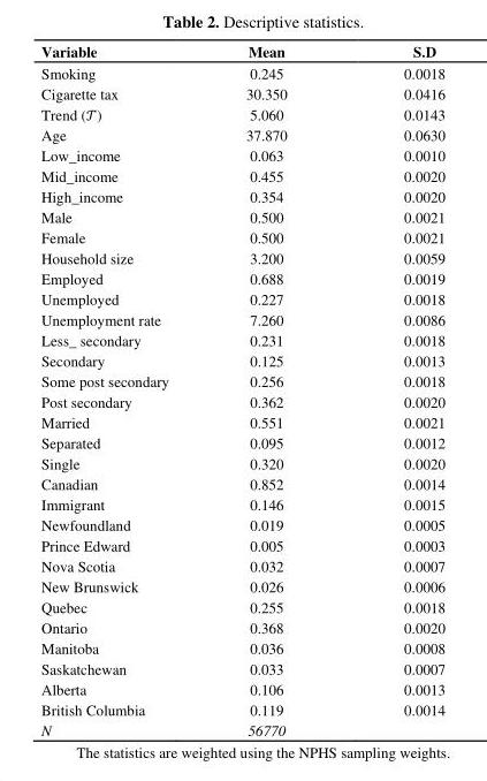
<table><thead><tr><td>Variable</td><td>Mean</td><td>S.D</td></tr></thead><tbody><tr><td>Smoking</td><td>0.245</td><td>0.0018</td></tr><tr><td>Cigarette tax</td><td>30.350</td><td>0.0416</td></tr><tr><td>Trend ( )</td><td>5.060</td><td>0.0143</td></tr><tr><td>Age</td><td>37.870</td><td>0.0630</td></tr><tr><td>Low_income</td><td>0.063</td><td>0.0010</td></tr><tr><td>Mid_income</td><td>0.455</td><td>0.0020</td></tr><tr><td>High_income</td><td>0.354</td><td>0.0020</td></tr><tr><td>Male</td><td>0.500</td><td>0.0021</td></tr><tr><td>Female</td><td>0.500</td><td>0.0021</td></tr><tr><td>Household size</td><td>3.200</td><td>0.0059</td></tr><tr><td>Employed</td><td>0.688</td><td>0.0019</td></tr><tr><td>Unemployed</td><td>0.227</td><td>0.0018</td></tr><tr><td>Unemployment rate</td><td>7.260</td><td>0.0086</td></tr><tr><td>Less_ secondary</td><td>0.231</td><td>0.0018</td></tr><tr><td>Secondary</td><td>0.125</td><td>0.0013</td></tr><tr><td>Some post secondary</td><td>0.256</td><td>0.0018</td></tr><tr><td>Post secondary</td><td>0.362</td><td>0.0020</td></tr><tr><td>Married</td><td>0.551</td><td>0.0021</td></tr><tr><td>Separated</td><td>0.095</td><td>0.0012</td></tr><tr><td>Single</td><td>0.320</td><td>0.0020</td></tr><tr><td>Canadian</td><td>0.852</td><td>0.0014</td></tr><tr><td>Immigrant</td><td>0.146</td><td>0.0015</td></tr><tr><td>Newfoundland</td><td>0.019</td><td>0.0005</td></tr><tr><td>Prince Edward</td><td>0.005</td><td>0.0003</td></tr><tr><td>Nova Scotia</td><td>0.032</td><td>0.0007</td></tr><tr><td>New Brunswick</td><td>0.026</td><td>0.0006</td></tr><tr><td>Quebec</td><td>0.255</td><td>0.0018</td></tr><tr><td>Ontario</td><td>0.368</td><td>0.0020</td></tr><tr><td>Manitoba</td><td>0.036</td><td>0.0008</td></tr><tr><td>Saskatchewan</td><td>0.033</td><td>0.0007</td></tr><tr><td>Alberta</td><td>0.106</td><td>0.0013</td></tr><tr><td>British Columbia</td><td>0.119</td><td>0.0014</td></tr><tr><td>N</td><td>56770</td><td></td></tr></tbody></table>